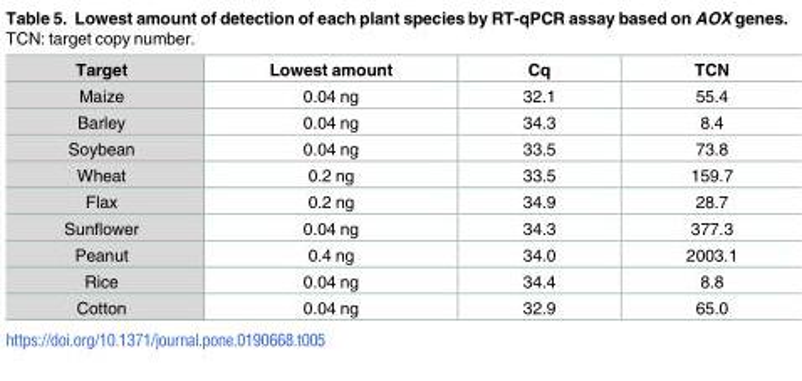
<table><thead><tr><td>Target</td><td>Lowest amount</td><td>Cq</td><td>TCN</td></tr></thead><tbody><tr><td>Maize</td><td>0.04 ng</td><td>32.1</td><td>55.4</td></tr><tr><td>Barley</td><td>0.04 ng</td><td>34.3</td><td>8.4</td></tr><tr><td>Soybean</td><td>0.04 ng</td><td>33.5</td><td>73.8</td></tr><tr><td>Wheat</td><td>0.2 ng</td><td>33.5</td><td>159.7</td></tr><tr><td>Flax</td><td>0.2 ng</td><td>34.9</td><td>28.7</td></tr><tr><td>Sunflower</td><td>0.04 ng</td><td>34.3</td><td>377.3</td></tr><tr><td>Peanut</td><td>0.4 ng</td><td>34.0</td><td>2003.1</td></tr><tr><td>Rice</td><td>0.04 ng</td><td>34.4</td><td>8.8</td></tr><tr><td>Cotton</td><td>0.04 ng</td><td>32.9</td><td>65.0</td></tr></tbody></table>